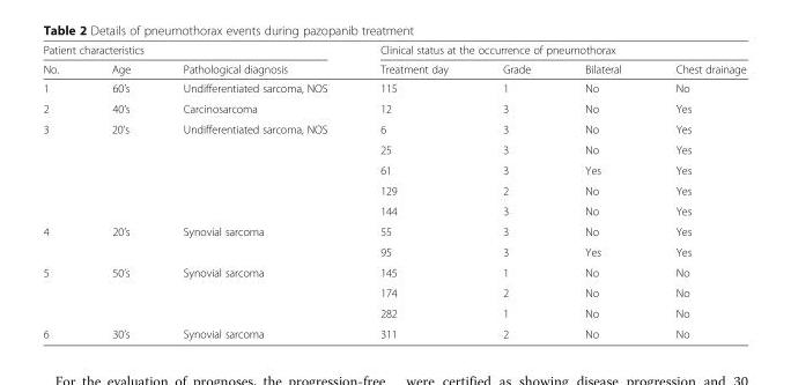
<table><thead><tr><td colspan="3">Patient characteristics</td><td colspan="4">Clinical status at the occurrence of pneumothorax</td></tr><tr><td>No.</td><td>Age</td><td>Pathological diagnosis</td><td>Treatment day</td><td>Grade</td><td>Bilateral</td><td>Chest drainage</td></tr></thead><tbody><tr><td>1</td><td>60’s</td><td>Undifferentiated sarcoma, NOS</td><td>115</td><td>1</td><td>No</td><td>No</td></tr><tr><td>2</td><td>40’s</td><td>Carcinosarcoma</td><td>12</td><td>3</td><td>No</td><td>Yes</td></tr><tr><td rowspan="5">3</td><td rowspan="5">20’s</td><td rowspan="5">Undifferentiated sarcoma, NOS</td><td>6</td><td>3</td><td>No</td><td>Yes</td></tr><tr><td>25</td><td>3</td><td>No</td><td>Yes</td></tr><tr><td>61</td><td>3</td><td>Yes</td><td>Yes</td></tr><tr><td>129</td><td>2</td><td>No</td><td>Yes</td></tr><tr><td>144</td><td>3</td><td>No</td><td>Yes</td></tr><tr><td rowspan="2">4</td><td rowspan="2">20’s</td><td rowspan="2">Synovial sarcoma</td><td>55</td><td>3</td><td>No</td><td>Yes</td></tr><tr><td>95</td><td>3</td><td>Yes</td><td>Yes</td></tr><tr><td rowspan="3">5</td><td rowspan="3">50’s</td><td rowspan="3">Synovial sarcoma</td><td>145</td><td>1</td><td>No</td><td>No</td></tr><tr><td>174</td><td>2</td><td>No</td><td>No</td></tr><tr><td>282</td><td>1</td><td>No</td><td>No</td></tr><tr><td>6</td><td>30’s</td><td>Synovial sarcoma</td><td>311</td><td>2</td><td>No</td><td>No</td></tr></tbody></table>